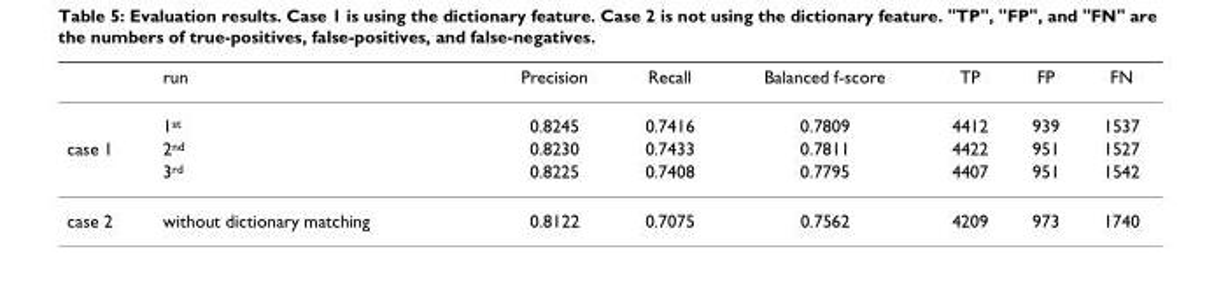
<table><thead><tr><td></td><td>run</td><td>Precision</td><td>Recall</td><td>Balanced f-score</td><td>TP</td><td>FP</td><td>FN</td></tr></thead><tbody><tr><td></td><td>1st</td><td>0.8245</td><td>0.7416</td><td>0.7809</td><td>4412</td><td>939</td><td>1537</td></tr><tr><td rowspan="2">case 1</td><td>2nd</td><td>0.8230</td><td>0.7433</td><td>0.7811</td><td>4422</td><td>951</td><td>1527</td></tr><tr><td>3rd</td><td>0.8225</td><td>0.7408</td><td>0.7795</td><td>4407</td><td>951</td><td>1542</td></tr><tr><td>case 2</td><td>without dictionary matching</td><td>0.8122</td><td>0.7075</td><td>0.7562</td><td>4209</td><td>973</td><td>1740</td></tr></tbody></table>